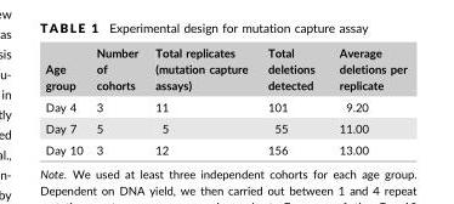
<table><thead><tr><td>Age group</td><td>Number of cohorts</td><td>Total replicates (mutation capture assays)</td><td>Total deletions detected</td><td>Average deletions per replicate</td></tr></thead><tbody><tr><td>Day 4</td><td>3</td><td>11</td><td>101</td><td>9.20</td></tr><tr><td>Day 7</td><td>5</td><td>5</td><td>55</td><td>11.00</td></tr><tr><td>Day 10</td><td>3</td><td>12</td><td>156</td><td>13.00</td></tr></tbody></table>